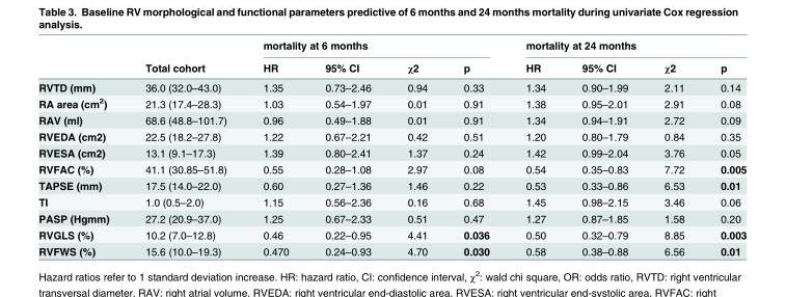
<table><thead><tr><td rowspan="2"></td><td rowspan="2">Total cohort</td><td colspan="4">mortality at 6 months</td><td colspan="4">mortality at 24 months</td></tr><tr><td>HR</td><td>95% CI</td><td>χ2</td><td>p</td><td>HR</td><td>95% CI</td><td>χ2</td><td>p</td></tr></thead><tbody><tr><td>RVTD (mm)</td><td>36.0 (32.0–43.0)</td><td>1.35</td><td>0.73–2.46</td><td>0.94</td><td>0.33</td><td>1.34</td><td>0.90–1.99</td><td>2.11</td><td>0.14</td></tr><tr><td>RA area (cm<sup>2</sup>)</td><td>21.3 (17.4–28.3)</td><td>1.03</td><td>0.54–1.97</td><td>0.01</td><td>0.91</td><td>1.38</td><td>0.95–2.01</td><td>2.91</td><td>0.08</td></tr><tr><td>RAV (ml)</td><td>68.6 (48.8–101.7)</td><td>0.96</td><td>0.49–1.88</td><td>0.01</td><td>0.91</td><td>1.34</td><td>0.94–1.91</td><td>2.72</td><td>0.09</td></tr><tr><td>RVEDA (cm2)</td><td>22.5 (18.2–27.8)</td><td>1.22</td><td>0.67–2.21</td><td>0.42</td><td>0.51</td><td>1.20</td><td>0.80–1.79</td><td>0.84</td><td>0.35</td></tr><tr><td>RVESA (cm2)</td><td>13.1 (9.1–17.3)</td><td>1.39</td><td>0.80–2.41</td><td>1.37</td><td>0.24</td><td>1.42</td><td>0.99–2.04</td><td>3.76</td><td>0.05</td></tr><tr><td>RVFAC (%)</td><td>41.1 (30.85–51.8)</td><td>0.55</td><td>0.28–1.08</td><td>2.97</td><td>0.08</td><td>0.54</td><td>0.35–0.83</td><td>7.72</td><td>0.005</td></tr><tr><td>TAPSE (mm)</td><td>17.5 (14.0–22.0)</td><td>0.60</td><td>0.27–1.36</td><td>1.46</td><td>0.22</td><td>0.53</td><td>0.33–0.86</td><td>6.53</td><td>0.01</td></tr><tr><td>TI</td><td>1.0 (0.5–2.0)</td><td>1.15</td><td>0.56–2.36</td><td>0.16</td><td>0.68</td><td>1.45</td><td>0.98–2.15</td><td>3.46</td><td>0.06</td></tr><tr><td>PASP (Hgmm)</td><td>27.2 (20.9–37.0)</td><td>1.25</td><td>0.67–2.33</td><td>0.51</td><td>0.47</td><td>1.27</td><td>0.87–1.85</td><td>1.58</td><td>0.20</td></tr><tr><td>RVGLS (%)</td><td>10.2 (7.0–12.8)</td><td>0.46</td><td>0.22–0.95</td><td>4.41</td><td>0.036</td><td>0.50</td><td>0.32–0.79</td><td>8.85</td><td>0.003</td></tr><tr><td>RVFWS (%)</td><td>15.6 (10.0–19.3)</td><td>0.470</td><td>0.24–0.93</td><td>4.70</td><td>0.030</td><td>0.58</td><td>0.38–0.88</td><td>6.56</td><td>0.01</td></tr></tbody></table>